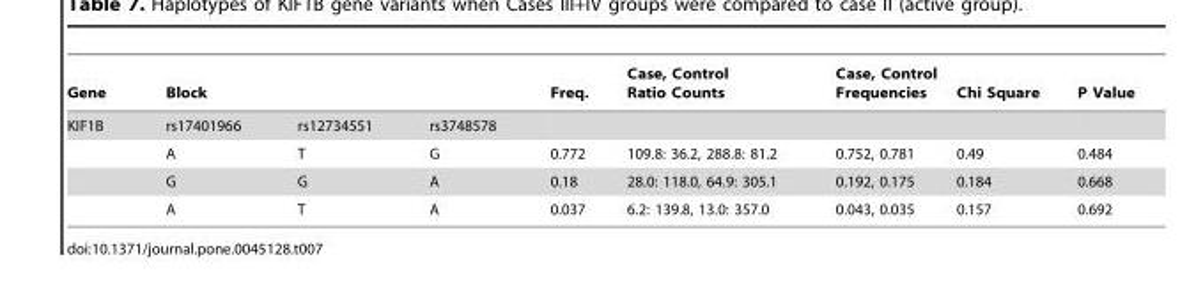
<table><thead><tr><td rowspan="2">Gene KIF1B</td><td colspan="3">Block</td><td rowspan="2">Freq.</td><td rowspan="2">Case, Control Ratio Counts</td><td rowspan="2">Case, Control Frequencies</td><td rowspan="2">Chi Square</td><td rowspan="2">P Value</td></tr><tr><td>rs17401966</td><td>rs12734551</td><td>rs3748578</td></tr></thead><tbody><tr><td></td><td>A</td><td>T</td><td>G</td><td>0.772</td><td>109.8: 36.2, 288.8: 81.2</td><td>0.752, 0.781</td><td>0.49</td><td>0.484</td></tr><tr><td></td><td>G</td><td>G</td><td>A</td><td>0.18</td><td>28.0: 118.0, 64.9: 305.1</td><td>0.192, 0.175</td><td>0.184</td><td>0.668</td></tr><tr><td></td><td>A</td><td>T</td><td>A</td><td>0.037</td><td>6.2: 139.8, 13.0: 357.0</td><td>0.043, 0.035</td><td>0.157</td><td>0.692</td></tr></tbody></table>